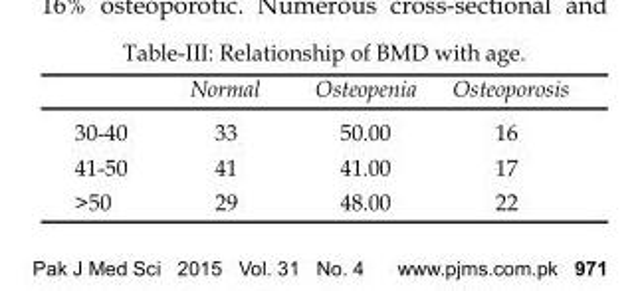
<table><thead><tr><td></td><td>Normal</td><td>Osteopenia</td><td>Osteoporosis</td></tr></thead><tbody><tr><td>30-40</td><td>33</td><td>50.00</td><td>16</td></tr><tr><td>41-50</td><td>41</td><td>41.00</td><td>17</td></tr><tr><td>&gt;50</td><td>29</td><td>48.00</td><td>22</td></tr></tbody></table>